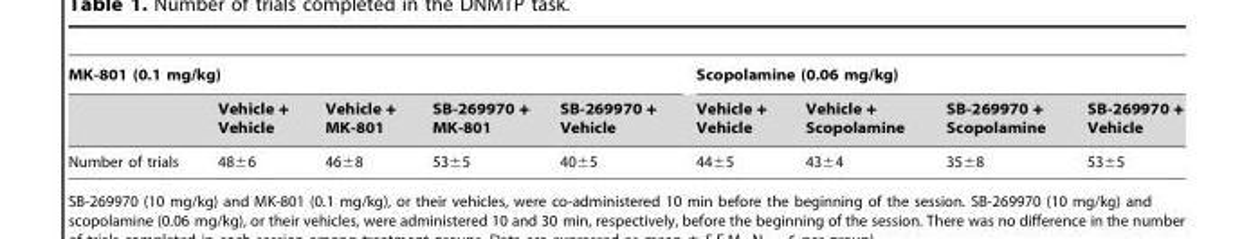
<table><thead><tr><td colspan="5">MK-801 (0.1 mg/kg)</td><td colspan="4">Scopolamine (0.06 mg/kg)</td></tr><tr><td></td><td>Vehicle + Vehicle</td><td>Vehicle + MK-801</td><td>SB-269970 + MK-801</td><td>SB-269970 + Vehicle</td><td>Vehicle + Vehicle</td><td>Vehicle + Scopolamine</td><td>SB-269970 + Scopolamine</td><td>SB-269970 + Vehicle</td></tr></thead><tbody><tr><td>Number of trials</td><td>48±6</td><td>46±8</td><td>53±5</td><td>40±5</td><td>44±5</td><td>43±4</td><td>35±8</td><td>53±5</td></tr></tbody></table>